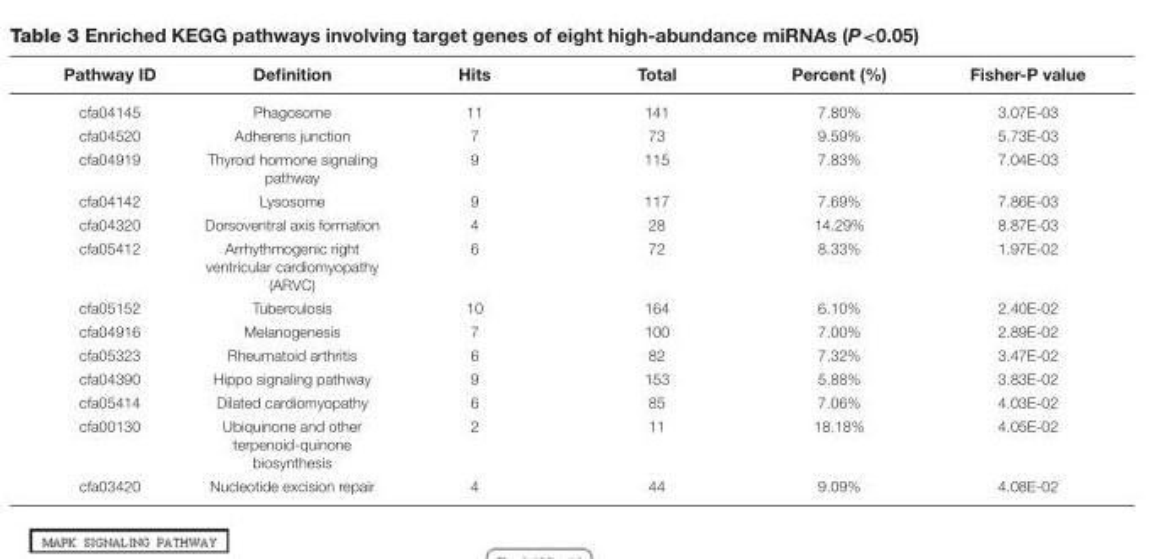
<table><thead><tr><td>Pathway ID</td><td>Definition</td><td>Hits</td><td>Total</td><td>Percent (%)</td><td>Fisher-P value</td></tr></thead><tbody><tr><td>cfa04145</td><td>Phagosome</td><td>11</td><td>141</td><td>7.80%</td><td>3.07E-03</td></tr><tr><td>cfa04520</td><td>Adherens junction</td><td>7</td><td>73</td><td>9.59%</td><td>5.73E-03</td></tr><tr><td>cfa04919</td><td>Thyroid hormone signaling pathway</td><td>9</td><td>115</td><td>7.83%</td><td>7.04E-03</td></tr><tr><td>cfa04142</td><td>Lysosome</td><td>9</td><td>117</td><td>7.69%</td><td>7.86E-03</td></tr><tr><td>cfa04320</td><td>Dorsoventral axis formation</td><td>4</td><td>28</td><td>14.29%</td><td>8.87E-03</td></tr><tr><td>cfa05412</td><td>Arrhythmogenic right ventricular cardiomyopathy (ARVC)</td><td>6</td><td>72</td><td>8.33%</td><td>1.97E-02</td></tr><tr><td>cfa05152</td><td>Tuberculosis</td><td>10</td><td>164</td><td>6.10%</td><td>2.40E-02</td></tr><tr><td>cfa04916</td><td>Melanogenesis</td><td>7</td><td>100</td><td>7.00%</td><td>2.89E-02</td></tr><tr><td>cfa05323</td><td>Rheumatoid arthritis</td><td>6</td><td>82</td><td>7.32%</td><td>3.47E-02</td></tr><tr><td>cfa04390</td><td>Hippo signaling pathway</td><td>9</td><td>153</td><td>5.88%</td><td>3.83E-02</td></tr><tr><td>cfa05414</td><td>Dilated cardiomyopathy</td><td>6</td><td>85</td><td>7.06%</td><td>4.03E-02</td></tr><tr><td>cfa00130</td><td>Ubiquinone and other terpenoid-quinone biosynthesis</td><td>2</td><td>11</td><td>18.18%</td><td>4.05E-02</td></tr><tr><td>cfa03420</td><td>Nucleotide excision repair</td><td>4</td><td>44</td><td>9.09%</td><td>4.08E-02</td></tr></tbody></table>